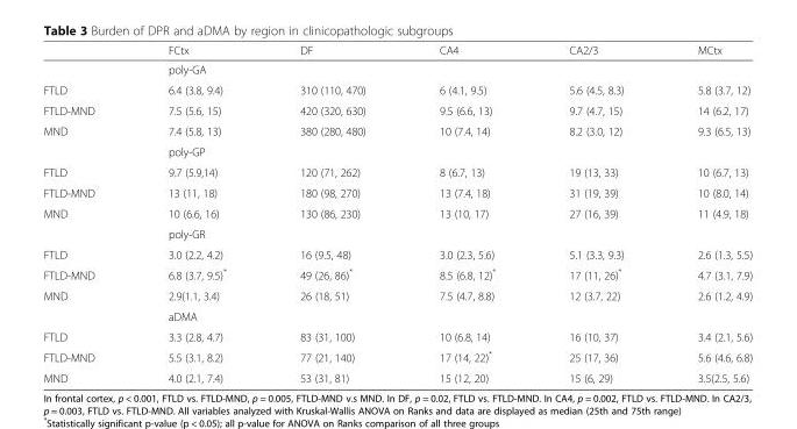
<table><thead><tr><td></td><td>FCtx</td><td>DF</td><td>CA4</td><td>CA2/3</td><td>MCtx</td></tr></thead><tbody><tr><td></td><td colspan="5">poly-GA</td></tr><tr><td>FTLD</td><td>6.4 (3.8, 9.4)</td><td>310 (110, 470)</td><td>6 (4.1, 9.5)</td><td>5.6 (4.5, 8.3)</td><td>5.8 (3.7, 12)</td></tr><tr><td>FTLD-MND</td><td>7.5 (5.6, 15)</td><td>420 (320, 630)</td><td>9.5 (6.6, 13)</td><td>9.7 (4.7, 15)</td><td>14 (6.2, 17)</td></tr><tr><td rowspan="2">MND</td><td>7.4 (5.8, 13)</td><td>380 (280, 480)</td><td>10 (7.4, 14)</td><td>8.2 (3.0, 12)</td><td>9.3 (6.5, 13)</td></tr><tr><td colspan="5">poly-GP</td></tr><tr><td>FTLD</td><td>9.7 (5.9,14)</td><td>120 (71, 262)</td><td>8 (6.7, 13)</td><td>19 (13, 33)</td><td>10 (6.7, 13)</td></tr><tr><td>FTLD-MND</td><td>13 (11, 18)</td><td>180 (98, 270)</td><td>13 (7.4, 18)</td><td>31 (19, 39)</td><td>10 (8.0, 14)</td></tr><tr><td rowspan="2">MND</td><td>10 (6.6, 16)</td><td>130 (86, 230)</td><td>13 (10, 17)</td><td>27 (16, 39)</td><td>11 (4.9, 18)</td></tr><tr><td colspan="5">poly-GR</td></tr><tr><td>FTLD</td><td>3.0 (2.2, 4.2)</td><td>16 (9.5, 48)</td><td>3.0 (2.3, 5.6)</td><td>5.1 (3.3, 9.3)</td><td>2.6 (1.3, 5.5)</td></tr><tr><td>FTLD-MND</td><td>6.8 (3.7, 9.5)*</td><td>49 (26, 86)*</td><td>8.5 (6.8, 12)*</td><td>17 (11, 26)*</td><td>4.7 (3.1, 7.9)</td></tr><tr><td rowspan="2">MND</td><td>2.9(1.1, 3.4)</td><td>26 (18, 51)</td><td>7.5 (4.7, 8.8)</td><td>12 (3.7, 22)</td><td>2.6 (1.2, 4.9)</td></tr><tr><td colspan="5">aDMA</td></tr><tr><td>FTLD</td><td>3.3 (2.8, 4.7)</td><td>83 (31, 100)</td><td>10 (6.8, 14)</td><td>16 (10, 37)</td><td>3.4 (2.1, 5.6)</td></tr><tr><td>FTLD-MND</td><td>5.5 (3.1, 8.2)</td><td>77 (21, 140)</td><td>17 (14, 22)*</td><td>25 (17, 36)</td><td>5.6 (4.6, 6.8)</td></tr><tr><td>MND</td><td>4.0 (2.1, 7.4)</td><td>53 (31, 81)</td><td>15 (12, 20)</td><td>15 (6, 29)</td><td>3.5(2.5, 5.6)</td></tr></tbody></table>